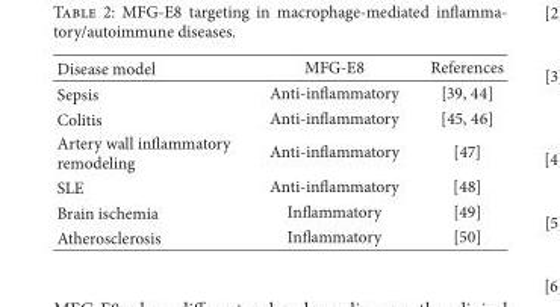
<table><thead><tr><td>Disease model</td><td>MFG-E8</td><td>References</td></tr></thead><tbody><tr><td>Sepsis</td><td>Anti-inflammatory</td><td>[39, 44]</td></tr><tr><td>Colitis</td><td>Anti-inflammatory</td><td>[45, 46]</td></tr><tr><td>Artery wall inflammatory remodeling</td><td>Anti-inflammatory</td><td>[47]</td></tr><tr><td>SLE</td><td>Anti-inflammatory</td><td>[48]</td></tr><tr><td>Brain ischemia</td><td>Inflammatory</td><td>[49]</td></tr><tr><td>Atherosclerosis</td><td>Inflammatory</td><td>[50]</td></tr></tbody></table>